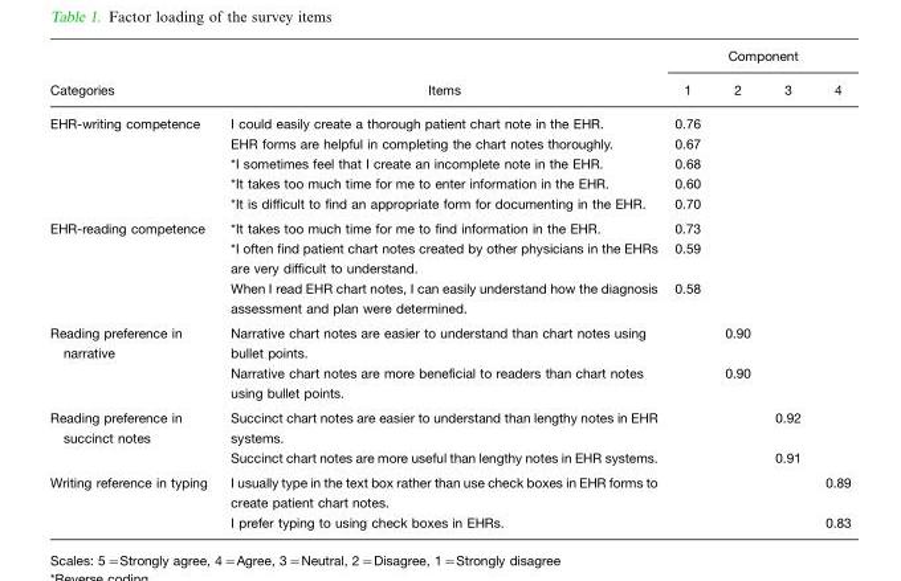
<table><thead><tr><td rowspan="2">Categories</td><td rowspan="2">Items</td><td colspan="4">Component</td></tr><tr><td>1</td><td>2</td><td>3</td><td>4</td></tr></thead><tbody><tr><td rowspan="5">EHR-writing competence</td><td>I could easily create a thorough patient chart note in the EHR.</td><td>0.76</td><td></td><td></td><td></td></tr><tr><td>EHR forms are helpful in completing the chart notes thoroughly.</td><td>0.67</td><td></td><td></td><td></td></tr><tr><td>*I sometimes feel that I create an incomplete note in the EHR.</td><td>0.68</td><td></td><td></td><td></td></tr><tr><td>*It takes too much time for me to enter information in the EHR.</td><td>0.60</td><td></td><td></td><td></td></tr><tr><td>*It is difficult to find an appropriate form for documenting in the EHR.</td><td>0.70</td><td></td><td></td><td></td></tr><tr><td rowspan="3">EHR-reading competence</td><td>*It takes too much time for me to find information in the EHR.</td><td>0.73</td><td></td><td></td><td></td></tr><tr><td>*I often find patient chart notes created by other physicians in the EHRs are very difficult to understand.</td><td>0.59</td><td></td><td></td><td></td></tr><tr><td>When I read EHR chart notes, I can easily understand how the diagnosis assessment and plan were determined.</td><td>0.58</td><td></td><td></td><td></td></tr><tr><td rowspan="2">Reading preference in narrative</td><td>Narrative chart notes are easier to understand than chart notes using bullet points.</td><td></td><td>0.90</td><td></td><td></td></tr><tr><td>Narrative chart notes are more beneficial to readers than chart notes using bullet points.</td><td></td><td>0.90</td><td></td><td></td></tr><tr><td rowspan="2">Reading preference in succinct notes</td><td>Succinct chart notes are easier to understand than lengthy notes in EHR systems.</td><td></td><td></td><td>0.92</td><td></td></tr><tr><td>Succinct chart notes are more useful than lengthy notes in EHR systems.</td><td></td><td></td><td>0.91</td><td></td></tr><tr><td rowspan="2">Writing reference in typing</td><td>I usually type in the text box rather than use check boxes in EHR forms to create patient chart notes.</td><td></td><td></td><td></td><td>0.89</td></tr><tr><td>I prefer typing to using check boxes in EHRs.</td><td></td><td></td><td></td><td>0.83</td></tr></tbody></table>